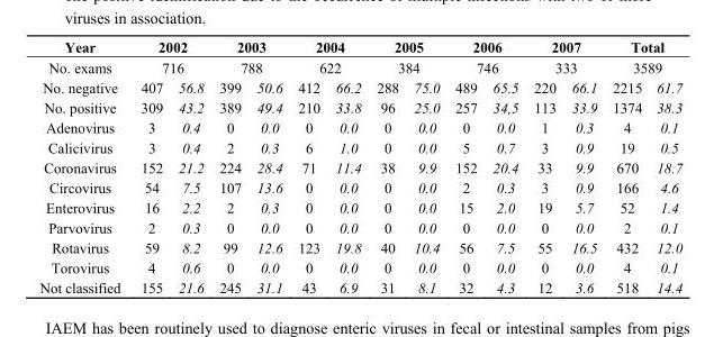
<table><thead><tr><td rowspan="3">Year No. exams No. negative</td><td rowspan="2" colspan="2">2002 716</td><td rowspan="2" colspan="2">2003 788</td><td rowspan="2" colspan="2">2004 622</td><td rowspan="2" colspan="2">2005 384</td><td rowspan="2" colspan="2">2006 746</td><td rowspan="2" colspan="2">2007 333</td><td rowspan="2" colspan="2">Total 3589</td></tr><tr></tr><tr><td>407</td><td>56.8</td><td>399</td><td>50.6</td><td>412</td><td>66.2</td><td>288</td><td>75.0</td><td>489</td><td>65.5</td><td>220</td><td>66.1</td><td>2215</td><td>61.7</td></tr></thead><tbody><tr><td>No. positive</td><td>309</td><td>43.2</td><td>389</td><td>49.4</td><td>210</td><td>33.8</td><td>96</td><td>25.0</td><td>257</td><td>34,5</td><td>113</td><td>33.9</td><td>1374</td><td>38.3</td></tr><tr><td>Adenovirus</td><td>3</td><td>0.4</td><td>0</td><td>0.0</td><td>0</td><td>0.0</td><td>0</td><td>0.0</td><td>0</td><td>0.0</td><td>1</td><td>0.3</td><td>4</td><td>0.1</td></tr><tr><td>Calicivirus</td><td>3</td><td>0.4</td><td>2</td><td>0.3</td><td>6</td><td>1.0</td><td>0</td><td>0.0</td><td>5</td><td>0.7</td><td>3</td><td>0.9</td><td>19</td><td>0.5</td></tr><tr><td>Coronavirus</td><td>152</td><td>21.2</td><td>224</td><td>28.4</td><td>71</td><td>11.4</td><td>38</td><td>9.9</td><td>152</td><td>20.4</td><td>33</td><td>9.9</td><td>670</td><td>18.7</td></tr><tr><td>Circovirus</td><td>54</td><td>7.5</td><td>107</td><td>13.6</td><td>0</td><td>0.0</td><td>0</td><td>0.0</td><td>2</td><td>0.3</td><td>3</td><td>0.9</td><td>166</td><td>4.6</td></tr><tr><td>Enterovirus</td><td>16</td><td>2.2</td><td>2</td><td>0.3</td><td>0</td><td>0.0</td><td>0</td><td>0.0</td><td>15</td><td>2.0</td><td>19</td><td>5.7</td><td>52</td><td>1.4</td></tr><tr><td>Parvovirus</td><td>2</td><td>0.3</td><td>0</td><td>0.0</td><td>0</td><td>0.0</td><td>0</td><td>0.0</td><td>0</td><td>0.0</td><td>0</td><td>0.0</td><td>2</td><td>0.1</td></tr><tr><td>Rotavirus</td><td>59</td><td>8.2</td><td>99</td><td>12.6</td><td>123</td><td>19.8</td><td>40</td><td>10.4</td><td>56</td><td>7.5</td><td>55</td><td>16.5</td><td>432</td><td>12.0</td></tr><tr><td>Torovirus</td><td>4</td><td>0.6</td><td>0</td><td>0.0</td><td>0</td><td>0.0</td><td>0</td><td>0.0</td><td>0</td><td>0.0</td><td>0</td><td>0.0</td><td>4</td><td>0.1</td></tr><tr><td>Not classified</td><td>155</td><td>21.6</td><td>245</td><td>31.1</td><td>43</td><td>6.9</td><td>31</td><td>8.1</td><td>32</td><td>4.3</td><td>12</td><td>3.6</td><td>518</td><td>14.4</td></tr></tbody></table>